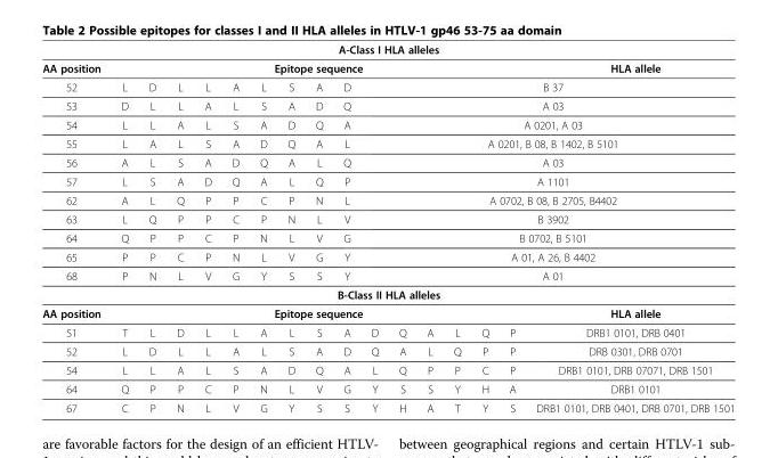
<table><tbody><tr><td colspan="17">A-Class I HLA alleles</td></tr><tr><td>AA position</td><td colspan="15">Epitope sequence</td><td>HLA allele</td></tr><tr><td>52</td><td>L</td><td>D</td><td>L</td><td>L</td><td>A</td><td>L</td><td>S</td><td>A</td><td>D</td><td colspan="7">B 37</td></tr><tr><td>53</td><td>D</td><td>L</td><td>L</td><td>A</td><td>L</td><td>S</td><td>A</td><td>D</td><td>Q</td><td colspan="7">A 03</td></tr><tr><td>54</td><td>L</td><td>L</td><td>A</td><td>L</td><td>S</td><td>A</td><td>D</td><td>Q</td><td>A</td><td colspan="7">A 0201, A 03</td></tr><tr><td>55</td><td>L</td><td>A</td><td>L</td><td>S</td><td>A</td><td>D</td><td>Q</td><td>A</td><td>L</td><td colspan="7">A 0201, B 08, B 1402, B 5101</td></tr><tr><td>56</td><td>A</td><td>L</td><td>S</td><td>A</td><td>D</td><td>Q</td><td>A</td><td>L</td><td>Q</td><td colspan="7">A 03</td></tr><tr><td>57</td><td>L</td><td>S</td><td>A</td><td>D</td><td>Q</td><td>A</td><td>L</td><td>Q</td><td>P</td><td colspan="7">A 1101</td></tr><tr><td>62</td><td>A</td><td>L</td><td>Q</td><td>P</td><td>P</td><td>C</td><td>P</td><td>N</td><td>L</td><td colspan="7">A 0702, B 08, B 2705, B4402</td></tr><tr><td>63</td><td>L</td><td>Q</td><td>P</td><td>P</td><td>C</td><td>P</td><td>N</td><td>L</td><td>V</td><td colspan="7">B 3902</td></tr><tr><td>64</td><td>Q</td><td>P</td><td>P</td><td>C</td><td>P</td><td>N</td><td>L</td><td>V</td><td>G</td><td colspan="7">B 0702, B 5101</td></tr><tr><td>65</td><td>P</td><td>P</td><td>C</td><td>P</td><td>N</td><td>L</td><td>V</td><td>G</td><td>Y</td><td colspan="7">A 01, A 26, B 4402</td></tr><tr><td>68</td><td>P</td><td>N</td><td>L</td><td>V</td><td>G</td><td>Y</td><td>S</td><td>S</td><td>Y</td><td colspan="7">A 01</td></tr><tr><td colspan="17">B-Class II HLA alleles</td></tr><tr><td>AA position</td><td colspan="15">Epitope sequence</td><td>HLA allele</td></tr><tr><td>51</td><td>T</td><td>L</td><td>D</td><td>L</td><td>L</td><td>A</td><td>L</td><td>S</td><td>A</td><td>D</td><td>Q</td><td>A</td><td>L</td><td>Q</td><td>P</td><td>DRB1 0101, DRB 0401</td></tr><tr><td>52</td><td>L</td><td>D</td><td>L</td><td>L</td><td>A</td><td>L</td><td>S</td><td>A</td><td>D</td><td>Q</td><td>A</td><td>L</td><td>Q</td><td>P</td><td>P</td><td>DRB 0301, DRB 0701</td></tr><tr><td>54</td><td>L</td><td>L</td><td>A</td><td>L</td><td>S</td><td>A</td><td>D</td><td>Q</td><td>A</td><td>L</td><td>Q</td><td>P</td><td>P</td><td>C</td><td>P</td><td>DRB1 0101, DRB 07071, DRB 1501</td></tr><tr><td>64</td><td>Q</td><td>P</td><td>P</td><td>C</td><td>P</td><td>N</td><td>L</td><td>V</td><td>G</td><td>Y</td><td>S</td><td>S</td><td>Y</td><td>H</td><td>A</td><td>DRB1 0101</td></tr><tr><td>67</td><td>C</td><td>P</td><td>N</td><td>L</td><td>V</td><td>G</td><td>Y</td><td>S</td><td>S</td><td>Y</td><td>H</td><td>A</td><td>T</td><td>Y</td><td>S</td><td>DRB1 0101, DRB 0401, DRB 0701, DRB 1501</td></tr></tbody></table>